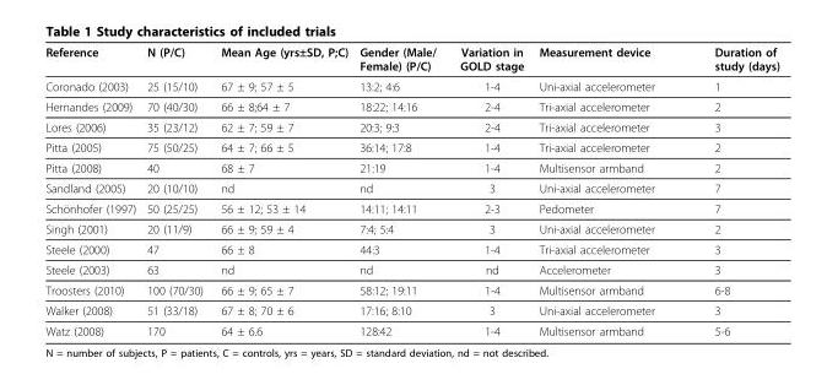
<table><thead><tr><td>Reference</td><td>N (P/C)</td><td>Mean Age (yrs±SD, P;C)</td><td>Gender (Male/ Female) (P/C)</td><td>Variation in GOLD stage</td><td>Measurement device</td><td>Duration of study (days)</td></tr></thead><tbody><tr><td>Coronado (2003)</td><td>25 (15/10)</td><td>67 ± 9; 57 ± 5</td><td>13:2; 4:6</td><td>1-4</td><td>Uni-axial accelerometer</td><td>1</td></tr><tr><td>Hernandes (2009)</td><td>70 (40/30)</td><td>66 ± 8;64 ± 7</td><td>18:22; 14:16</td><td>2-4</td><td>Tri-axial accelerometer</td><td>2</td></tr><tr><td>Lores (2006)</td><td>35 (23/12)</td><td>62 ± 7; 59 ± 7</td><td>20:3; 9:3</td><td>2-4</td><td>Tri-axial accelerometer</td><td>3</td></tr><tr><td>Pitta (2005)</td><td>75 (50/25)</td><td>64 ± 7; 66 ± 5</td><td>36:14; 17:8</td><td>1-4</td><td>Tri-axial accelerometer</td><td>2</td></tr><tr><td>Pitta (2008)</td><td>40</td><td>68 ± 7</td><td>21:19</td><td>1-4</td><td>Multisensor armband</td><td>2</td></tr><tr><td>Sandland (2005)</td><td>20 (10/10)</td><td>nd</td><td>nd</td><td>3</td><td>Uni-axial accelerometer</td><td>7</td></tr><tr><td>Schönhofer (1997)</td><td>50 (25/25)</td><td>56 ± 12; 53 ± 14</td><td>14:11; 14:11</td><td>2-3</td><td>Pedometer</td><td>7</td></tr><tr><td>Singh (2001)</td><td>20 (11/9)</td><td>66 ± 9; 59 ± 4</td><td>7:4; 5:4</td><td>3</td><td>Uni-axial accelerometer</td><td>2</td></tr><tr><td>Steele (2000)</td><td>47</td><td>66 ± 8</td><td>44:3</td><td>1-4</td><td>Tri-axial accelerometer</td><td>3</td></tr><tr><td>Steele (2003)</td><td>63</td><td>nd</td><td>nd</td><td>nd</td><td>Accelerometer</td><td>3</td></tr><tr><td>Troosters (2010)</td><td>100 (70/30)</td><td>66 ± 9; 65 ± 7</td><td>58:12; 19:11</td><td>1-4</td><td>Multisensor armband</td><td>6-8</td></tr><tr><td>Walker (2008)</td><td>51 (33/18)</td><td>67 ± 8; 70 ± 6</td><td>17:16; 8:10</td><td>3</td><td>Uni-axial accelerometer</td><td>3</td></tr><tr><td>Watz (2008)</td><td>170</td><td>64 ± 6.6</td><td>128:42</td><td>1-4</td><td>Multisensor armband</td><td>5-6</td></tr></tbody></table>